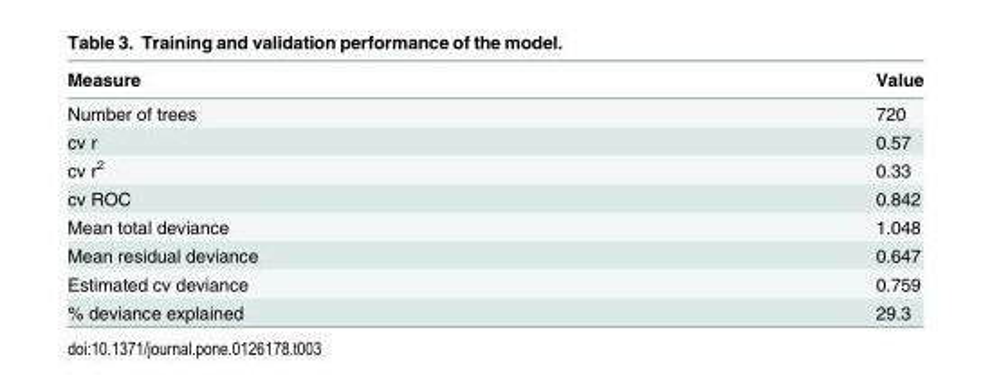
<table><thead><tr><td>Measure</td><td>Value</td></tr></thead><tbody><tr><td>Number of trees</td><td>720</td></tr><tr><td>cv r</td><td>0.57</td></tr><tr><td>cv r<sup>2</sup></td><td>0.33</td></tr><tr><td>cv ROC</td><td>0.842</td></tr><tr><td>Mean total deviance</td><td>1.048</td></tr><tr><td>Mean residual deviance</td><td>0.647</td></tr><tr><td>Estimated cv deviance</td><td>0.759</td></tr><tr><td>% deviance explained</td><td>29.3</td></tr></tbody></table>